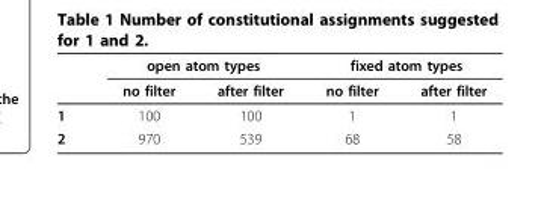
<table><thead><tr><td rowspan="2"></td><td colspan="2">open atom types</td><td colspan="2">fixed atom types</td></tr><tr><td>no filter</td><td>after filter</td><td>no filter</td><td>after filter</td></tr></thead><tbody><tr><td>1</td><td>100</td><td>100</td><td>1</td><td>1</td></tr><tr><td>2</td><td>970</td><td>539</td><td>68</td><td>58</td></tr></tbody></table>